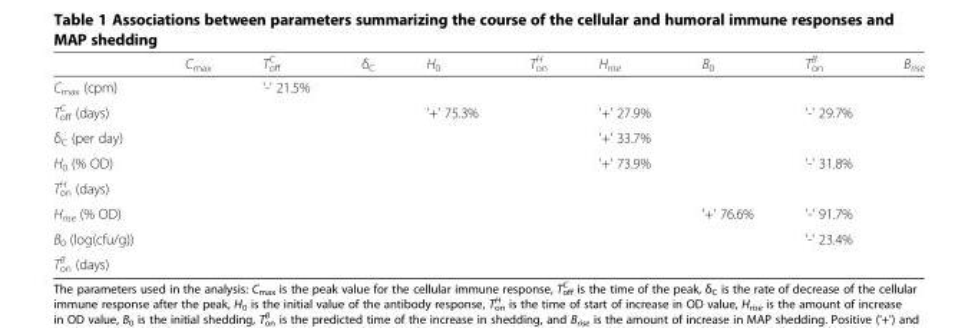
<table><thead><tr><td></td><td>C<sub>max</sub></td><td>T<sub>off</sub> <sup>C</sup></td><td>δ<sub>C</sub></td><td>H<sub>0</sub></td><td>T<sub>on</sub> <sup>H</sup></td><td>H<sub>rise</sub></td><td>B<sub>0</sub></td><td>T<sub>on</sub> <sup>B</sup></td><td>B<sub>rise</sub></td></tr></thead><tbody><tr><td>C<sub>max</sub> (cpm)</td><td></td><td>&#x27;-&#x27; 21.5%</td><td colspan="7"></td></tr><tr><td>T<sub>off</sub> <sup>C</sup> (days)</td><td colspan="3"></td><td>&#x27;+&#x27; 75.3%</td><td></td><td>&#x27;+&#x27; 27.9%</td><td></td><td>&#x27;-&#x27; 29.7%</td><td></td></tr><tr><td>δ<sub>C</sub> (per day)</td><td colspan="5"></td><td>&#x27;+&#x27; 33.7%</td><td colspan="3"></td></tr><tr><td>H<sub>0</sub> (% OD)</td><td colspan="5"></td><td>&#x27;+&#x27; 73.9%</td><td></td><td>&#x27;-&#x27; 31.8%</td><td></td></tr><tr><td colspan="10">T<sub>on</sub> <sup>H</sup> (days)</td></tr><tr><td>H<sub>rise</sub> (% OD)</td><td colspan="6"></td><td>&#x27;+&#x27; 76.6%</td><td>&#x27;-&#x27; 91.7%</td><td></td></tr><tr><td>B<sub>0</sub> (log(cfu/g))</td><td colspan="7"></td><td>&#x27;-&#x27; 23.4%</td><td></td></tr><tr><td>T<sub>on</sub> <sup>B</sup> (days)</td><td colspan="9"></td></tr></tbody></table>